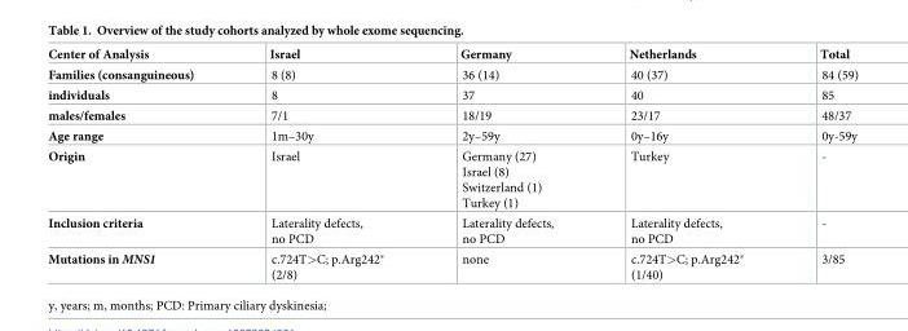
<table><thead><tr><td>Center of Analysis</td><td>Israel</td><td>Germany</td><td>Netherlands</td><td>Total</td></tr></thead><tbody><tr><td>Families (consanguineous)</td><td>8 (8)</td><td>36 (14)</td><td>40 (37)</td><td>84 (59)</td></tr><tr><td>individuals</td><td>8</td><td>37</td><td>40</td><td>85</td></tr><tr><td>males/females</td><td>7/1</td><td>18/19</td><td>23/17</td><td>48/37</td></tr><tr><td>Age range</td><td>1m–30y</td><td>2y–59y</td><td>0y–16y</td><td>0y-59y</td></tr><tr><td>Origin</td><td>Israel</td><td>Germany (27) Israel (8) Switzerland (1) Turkey (1)</td><td>Turkey</td><td>-</td></tr><tr><td>Inclusion criteria</td><td>Laterality defects, no PCD</td><td>Laterality defects, no PCD</td><td>Laterality defects, no PCD</td><td>-</td></tr><tr><td>Mutations in MNS1</td><td>c.724T&gt;C; p.Arg242* (2/8)</td><td>none</td><td>c.724T&gt;C; p.Arg242* (1/40)</td><td>3/85</td></tr></tbody></table>